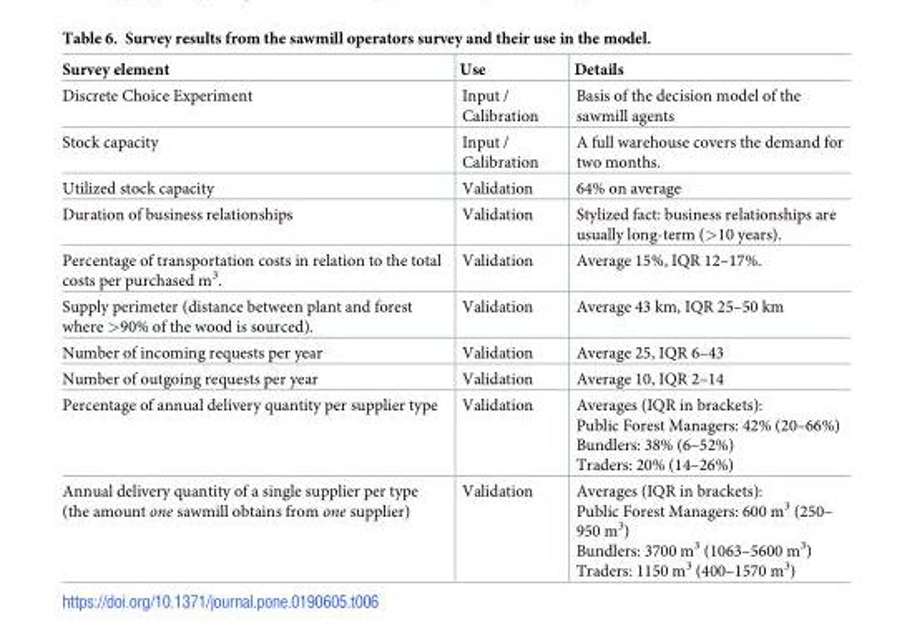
<table><thead><tr><td>Survey element</td><td>Use</td><td>Details</td></tr></thead><tbody><tr><td>Discrete Choice Experiment</td><td>Input / Calibration</td><td>Basis of the decision model of the sawmill agents</td></tr><tr><td>Stock capacity</td><td>Input / Calibration</td><td>A full warehouse covers the demand for two months.</td></tr><tr><td>Utilized stock capacity</td><td>Validation</td><td>64% on average</td></tr><tr><td>Duration of business relationships</td><td>Validation</td><td>Stylized fact: business relationships are usually long-term (&gt;10 years).</td></tr><tr><td>Percentage of transportation costs in relation to the total costs per purchased m<sup>3</sup>.</td><td>Validation</td><td>Average 15%, IQR 12–17%.</td></tr><tr><td>Supply perimeter (distance between plant and forest where &gt;90% of the wood is sourced).</td><td>Validation</td><td>Average 43 km, IQR 25–50 km</td></tr><tr><td>Number of incoming requests per year</td><td>Validation</td><td>Average 25, IQR 6–43</td></tr><tr><td>Number of outgoing requests per year</td><td>Validation</td><td>Average 10, IQR 2–14</td></tr><tr><td>Percentage of annual delivery quantity per supplier type</td><td>Validation</td><td>Averages (IQR in brackets): Public Forest Managers: 42% (20–66%) Bundlers: 38% (6–52%) Traders: 20% (14–26%)</td></tr><tr><td>Annual delivery quantity of a single supplier per type (the amount one sawmill obtains from one supplier)</td><td>Validation</td><td>Averages (IQR in brackets): Public Forest Managers: 600 m<sup>3</sup> (250– 950 m<sup>3</sup>) Bundlers: 3700 m<sup>3</sup> (1063–5600 m<sup>3</sup>) Traders: 1150 m<sup>3</sup> (400–1570 m<sup>3</sup>)</td></tr></tbody></table>